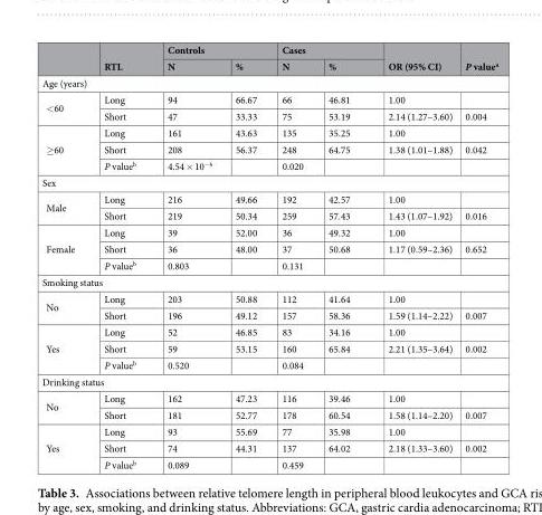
<table><thead><tr><td rowspan="2"></td><td rowspan="2">RTL</td><td colspan="2">Controls</td><td colspan="2">Cases</td><td rowspan="2">OR (95% CI)</td><td rowspan="2">P value<sup>a</sup></td></tr><tr><td>N</td><td>%</td><td>N</td><td>%</td></tr></thead><tbody><tr><td colspan="8">Age (years)</td></tr><tr><td rowspan="2">&lt;60</td><td>Long</td><td>94</td><td>66.67</td><td>66</td><td>46.81</td><td>1.00</td><td></td></tr><tr><td>Short</td><td>47</td><td>33.33</td><td>75</td><td>53.19</td><td>2.14 (1.27–3.60)</td><td>0.004</td></tr><tr><td rowspan="3">≥60</td><td>Long</td><td>161</td><td>43.63</td><td>135</td><td>35.25</td><td>1.00</td><td></td></tr><tr><td>Short</td><td>208</td><td>56.37</td><td>248</td><td>64.75</td><td>1.38 (1.01–1.88)</td><td>0.042</td></tr><tr><td>P value<sup>b</sup></td><td>4.54 × 10<sup>−6</sup></td><td></td><td>0.020</td><td></td><td></td><td></td></tr><tr><td colspan="8">Sex</td></tr><tr><td rowspan="2">Male</td><td>Long</td><td>216</td><td>49.66</td><td>192</td><td>42.57</td><td>1.00</td><td></td></tr><tr><td>Short</td><td>219</td><td>50.34</td><td>259</td><td>57.43</td><td>1.43 (1.07–1.92)</td><td>0.016</td></tr><tr><td rowspan="3">Female</td><td>Long</td><td>39</td><td>52.00</td><td>36</td><td>49.32</td><td>1.00</td><td></td></tr><tr><td>Short</td><td>36</td><td>48.00</td><td>37</td><td>50.68</td><td>1.17 (0.59–2.36)</td><td>0.652</td></tr><tr><td>P value<sup>b</sup></td><td>0.803</td><td></td><td>0.131</td><td></td><td></td><td></td></tr><tr><td colspan="8">Smoking status</td></tr><tr><td rowspan="2">No</td><td>Long</td><td>203</td><td>50.88</td><td>112</td><td>41.64</td><td>1.00</td><td></td></tr><tr><td>Short</td><td>196</td><td>49.12</td><td>157</td><td>58.36</td><td>1.59 (1.14–2.22)</td><td>0.007</td></tr><tr><td rowspan="3">Yes</td><td>Long</td><td>52</td><td>46.85</td><td>83</td><td>34.16</td><td>1.00</td><td></td></tr><tr><td>Short</td><td>59</td><td>53.15</td><td>160</td><td>65.84</td><td>2.21 (1.35–3.64)</td><td>0.002</td></tr><tr><td>P value<sup>b</sup></td><td>0.520</td><td></td><td>0.084</td><td></td><td></td><td></td></tr><tr><td colspan="8">Drinking status</td></tr><tr><td rowspan="2">No</td><td>Long</td><td>162</td><td>47.23</td><td>116</td><td>39.46</td><td>1.00</td><td></td></tr><tr><td>Short</td><td>181</td><td>52.77</td><td>178</td><td>60.54</td><td>1.58 (1.14–2.20)</td><td>0.007</td></tr><tr><td rowspan="3">Yes</td><td>Long</td><td>93</td><td>55.69</td><td>77</td><td>35.98</td><td>1.00</td><td></td></tr><tr><td>Short</td><td>74</td><td>44.31</td><td>137</td><td>64.02</td><td>2.18 (1.33–3.60)</td><td>0.002</td></tr><tr><td>P value<sup>b</sup></td><td>0.089</td><td></td><td>0.459</td><td></td><td></td><td></td></tr></tbody></table>